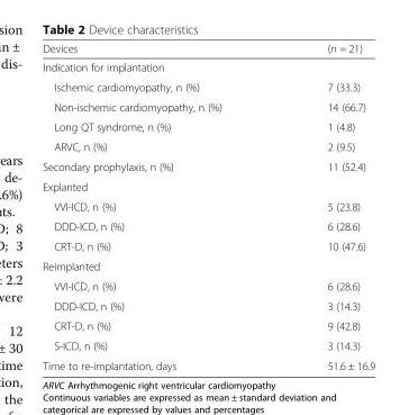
<table><thead><tr><td>Devices</td><td>(n = 21)</td></tr></thead><tbody><tr><td colspan="2">Indication for implantation</td></tr><tr><td>Ischemic cardiomyopathy, n (%)</td><td>7 (33.3)</td></tr><tr><td>Non-ischemic cardiomyopathy, n (%)</td><td>14 (66.7)</td></tr><tr><td>Long QT syndrome, n (%)</td><td>1 (4.8)</td></tr><tr><td>ARVC, n (%)</td><td>2 (9.5)</td></tr><tr><td>Secondary prophylaxis, n (%)</td><td>11 (52.4)</td></tr><tr><td colspan="2">Explanted</td></tr><tr><td>VVI-ICD, n (%)</td><td>5 (23.8)</td></tr><tr><td>DDD-ICD, n (%)</td><td>6 (28.6)</td></tr><tr><td>CRT-D, n (%)</td><td>10 (47.6)</td></tr><tr><td colspan="2">Reimplanted</td></tr><tr><td>VVI-ICD, n (%)</td><td>6 (28.6)</td></tr><tr><td>DDD-ICD, n (%)</td><td>3 (14.3)</td></tr><tr><td>CRT-D, n (%)</td><td>9 (42.8)</td></tr><tr><td>S-ICD, n (%)</td><td>3 (14.3)</td></tr><tr><td>Time to re-implantation, days</td><td>51.6 ± 16.9</td></tr></tbody></table>